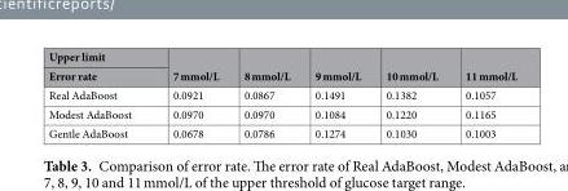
<table><thead><tr><td rowspan="2">Upper limit Error rate</td><td rowspan="2">7 mmol/L</td><td rowspan="2">8 mmol/L</td><td rowspan="2">9 mmol/L</td><td rowspan="2">10 mmol/L</td><td rowspan="2">11 mmol/L</td></tr><tr></tr></thead><tbody><tr><td>Real AdaBoost</td><td>0.0921</td><td>0.0867</td><td>0.1491</td><td>0.1382</td><td>0.1057</td></tr><tr><td>Modest AdaBoost</td><td>0.0970</td><td>0.0970</td><td>0.1084</td><td>0.1220</td><td>0.1165</td></tr><tr><td>Gentle AdaBoost</td><td>0.0678</td><td>0.0786</td><td>0.1274</td><td>0.1030</td><td>0.1003</td></tr></tbody></table>